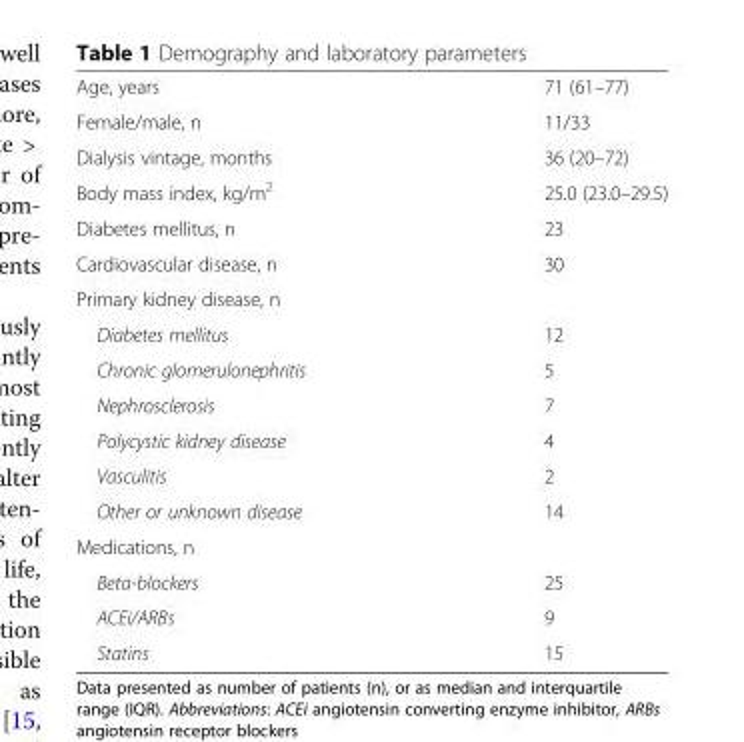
<table><tbody><tr><td>Age, years</td><td>71 (61–77)</td></tr><tr><td>Female/male, n</td><td>11/33</td></tr><tr><td>Dialysis vintage, months</td><td>36 (20–72)</td></tr><tr><td>Body mass index, kg/m<sup>2</sup></td><td>25.0 (23.0–29.5)</td></tr><tr><td>Diabetes mellitus, n</td><td>23</td></tr><tr><td>Cardiovascular disease, n</td><td>30</td></tr><tr><td colspan="2">Primary kidney disease, n</td></tr><tr><td>Diabetes mellitus</td><td>12</td></tr><tr><td>Chronic glomerulonephritis</td><td>5</td></tr><tr><td>Nephrosclerosis</td><td>7</td></tr><tr><td>Polycystic kidney disease</td><td>4</td></tr><tr><td>Vasculitis</td><td>2</td></tr><tr><td>Other or unknown disease</td><td>14</td></tr><tr><td colspan="2">Medications, n</td></tr><tr><td>Beta-blockers</td><td>25</td></tr><tr><td>ACEi/ARBs</td><td>9</td></tr><tr><td>Statins</td><td>15</td></tr></tbody></table>